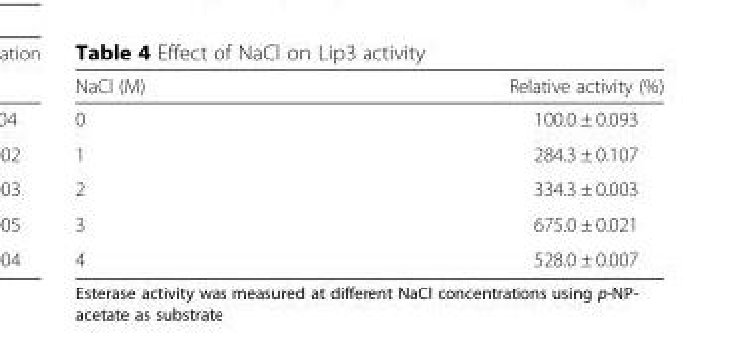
<table><thead><tr><td>NaCl (M)</td><td>Relative activity (%)</td></tr></thead><tbody><tr><td>0</td><td>100.0 ± 0.093</td></tr><tr><td>1</td><td>284.3 ± 0.107</td></tr><tr><td>2</td><td>334.3 ± 0.003</td></tr><tr><td>3</td><td>675.0 ± 0.021</td></tr><tr><td>4</td><td>528.0 ± 0.007</td></tr></tbody></table>